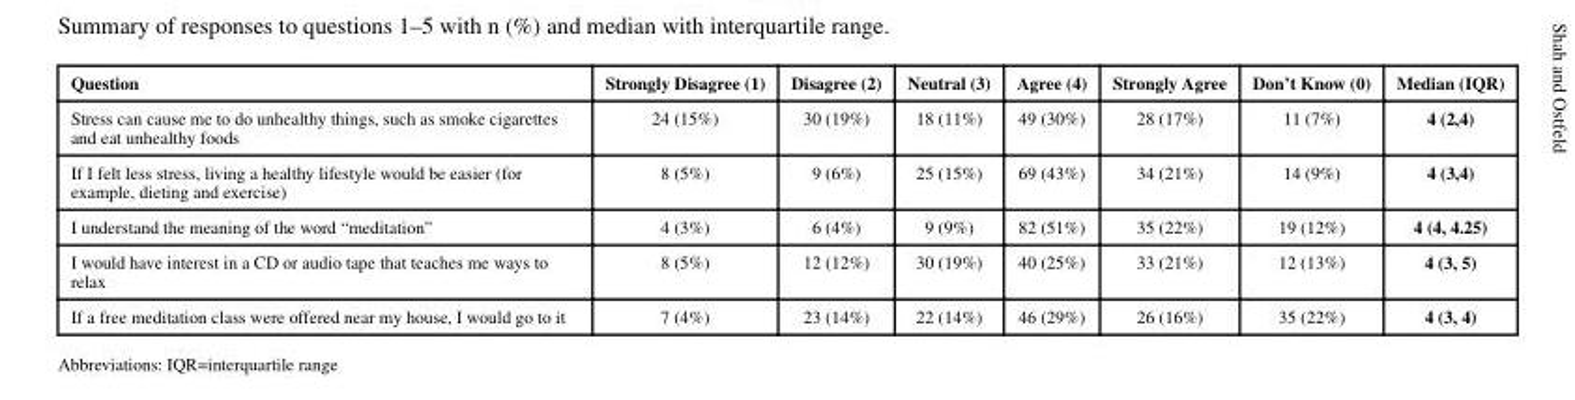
<table><thead><tr><td>Question</td><td>Strongly Disagree (1)</td><td>Disagree (2)</td><td>Neutral (3)</td><td>Agree (4)</td><td>Strongly Agree</td><td>Don’t Know (0)</td><td>Median (IQR)</td></tr></thead><tbody><tr><td>Stress can cause me to do unhealthy things, such as smoke cigarettes and eat unhealthy foods</td><td>24 (15%)</td><td>30 (19%)</td><td>18 (11%)</td><td>49 (30%)</td><td>28 (17%)</td><td>11 (7%)</td><td>4 (2,4)</td></tr><tr><td>If I felt less stress, living a healthy lifestyle would be easier (for example, dieting and exercise)</td><td>8 (5%)</td><td>9 (6%)</td><td>25 (15%)</td><td>69 (43%)</td><td>34 (21%)</td><td>14 (9%)</td><td>4 (3,4)</td></tr><tr><td>I understand the meaning of the word “meditation”</td><td>4 (3%)</td><td>6 (4%)</td><td>9 (9%)</td><td>82 (51%)</td><td>35 (22%)</td><td>19 (12%)</td><td>4 (4, 4.25)</td></tr><tr><td>I would have interest in a CD or audio tape that teaches me ways to relax</td><td>8 (5%)</td><td>12 (12%)</td><td>30 (19%)</td><td>40 (25%)</td><td>33 (21%)</td><td>12 (13%)</td><td>4 (3, 5)</td></tr><tr><td>If a free meditation class were offered near my house, I would go to it</td><td>7 (4%)</td><td>23 (14%)</td><td>22 (14%)</td><td>46 (29%)</td><td>26 (16%)</td><td>35 (22%)</td><td>4 (3, 4)</td></tr></tbody></table>